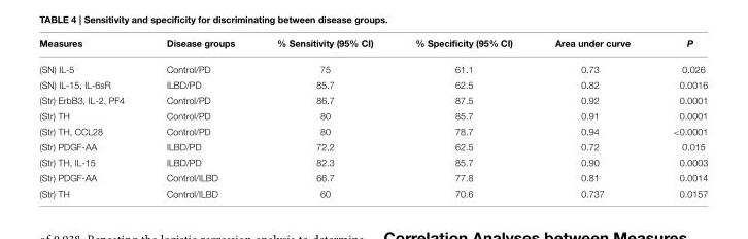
<table><thead><tr><td>Measures</td><td>Disease groups</td><td>% Sensitivity (95% CI)</td><td>% Specificity (95% CI)</td><td>Area under curve</td><td>P</td></tr></thead><tbody><tr><td>(SN) IL-5</td><td>Control/PD</td><td>75</td><td>61.1</td><td>0.73</td><td>0.026</td></tr><tr><td>(SN) IL-15, IL-6sR</td><td>ILBD/PD</td><td>85.7</td><td>62.5</td><td>0.82</td><td>0.0016</td></tr><tr><td>(Str) ErbB3, IL-2, PF4</td><td>Control/PD</td><td>86.7</td><td>87.5</td><td>0.92</td><td>0.0001</td></tr><tr><td>(Str) TH</td><td>Control/PD</td><td>80</td><td>85.7</td><td>0.91</td><td>0.0001</td></tr><tr><td>(Str) TH, CCL28</td><td>Control/PD</td><td>80</td><td>78.7</td><td>0.94</td><td>&lt;0.0001</td></tr><tr><td>(Str) PDGF-AA</td><td>ILBD/PD</td><td>72.2</td><td>62.5</td><td>0.72</td><td>0.015</td></tr><tr><td>(Str) TH, IL-15</td><td>ILBD/PD</td><td>82.3</td><td>85.7</td><td>0.90</td><td>0.0003</td></tr><tr><td>(Str) PDGF-AA</td><td>Control/ILBD</td><td>66.7</td><td>77.8</td><td>0.81</td><td>0.0014</td></tr><tr><td>(Str) TH</td><td>Control/ILBD</td><td>60</td><td>70.6</td><td>0.737</td><td>0.0157</td></tr></tbody></table>